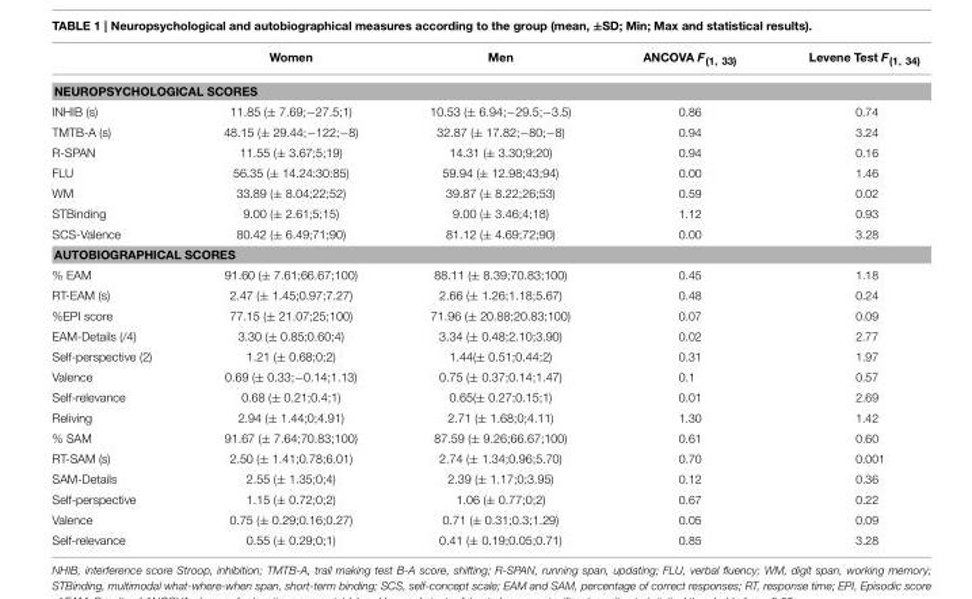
<table><thead><tr><td></td><td>Women</td><td>Men</td><td>ANCOVA F<sub>(1, 33)</sub></td><td>Levene Test F<sub>(1, 34)</sub></td></tr></thead><tbody><tr><td colspan="5">NEUROPSYCHOLOGICAL SCORES</td></tr><tr><td>INHIB (s)</td><td>11.85 (± 7.69;−27.5;1)</td><td>10.53 (± 6.94;−29.5;−3.5)</td><td>0.86</td><td>0.74</td></tr><tr><td>TMTB-A (s)</td><td>48.15 (± 29.44;−122;−8)</td><td>32.87 (± 17.82;−80;−8)</td><td>0.94</td><td>3.24</td></tr><tr><td>R-SPAN</td><td>11.55 (± 3.67;5;19)</td><td>14.31 (± 3.30;9;20)</td><td>0.94</td><td>0.16</td></tr><tr><td>FLU</td><td>56.35 (± 14.24:30:85)</td><td>59.94 (± 12.98;43;94)</td><td>0.00</td><td>1.46</td></tr><tr><td>WM</td><td>33.89 (± 8.04;22;52)</td><td>39.87 (± 8.22;26;53)</td><td>0.59</td><td>0.02</td></tr><tr><td>STBinding</td><td>9.00 (± 2.61;5;15)</td><td>9.00 (± 3.46;4;18)</td><td>1.12</td><td>0.93</td></tr><tr><td>SCS-Valence</td><td>80.42 (± 6.49;71;90)</td><td>81.12 (± 4.69;72;90)</td><td>0.00</td><td>3.28</td></tr><tr><td colspan="5">AUTOBIOGRAPHICAL SCORES</td></tr><tr><td>% EAM</td><td>91.60 (± 7.61;66.67;100)</td><td>88.11 (± 8.39;70.83;100)</td><td>0.45</td><td>1.18</td></tr><tr><td>RT-EAM (s)</td><td>2.47 (± 1.45;0.97;7.27)</td><td>2.66 (± 1.26;1.18;5.67)</td><td>0.48</td><td>0.24</td></tr><tr><td>%EPI score</td><td>77.15 (± 21.07;25;100)</td><td>71.96 (± 20.88;20.83;100)</td><td>0.07</td><td>0.09</td></tr><tr><td>EAM-Details (/4)</td><td>3.30 (± 0.85;0.60;4)</td><td>3.34 (± 0.48;2.10;3.90)</td><td>0.02</td><td>2.77</td></tr><tr><td>Self-perspective (2)</td><td>1.21 (± 0.68;0;2)</td><td>1.44(± 0.51;0.44;2)</td><td>0.31</td><td>1.97</td></tr><tr><td>Valence</td><td>0.69 (± 0.33;−0.14;1.13)</td><td>0.75 (± 0.37;0.14;1.47)</td><td>0.1</td><td>0.57</td></tr><tr><td>Self-relevance</td><td>0.68 (± 0.21;0.4;1)</td><td>0.65(± 0.27;0.15;1)</td><td>0.01</td><td>2.69</td></tr><tr><td>Reliving</td><td>2.94 (± 1.44;0;4.91)</td><td>2.71 (± 1.68;0;4.11)</td><td>1.30</td><td>1.42</td></tr><tr><td>% SAM</td><td>91.67 (± 7.64;70.83;100)</td><td>87.59 (± 9.26;66.67;100)</td><td>0.61</td><td>0.60</td></tr><tr><td>RT-SAM (s)</td><td>2.50 (± 1.41;0.78;6.01)</td><td>2.74 (± 1.34;0.96;5.70)</td><td>0.70</td><td>0.001</td></tr><tr><td>SAM-Details</td><td>2.55 (± 1.35;0;4)</td><td>2.39 (± 1.17;0;3.95)</td><td>0.12</td><td>0.36</td></tr><tr><td>Self-perspective</td><td>1.15 (± 0.72;0;2)</td><td>1.06 (± 0.77;0;2)</td><td>0.67</td><td>0.22</td></tr><tr><td>Valence</td><td>0.75 (± 0.29;0.16;0.27)</td><td>0.71 (± 0.31;0.3;1.29)</td><td>0.05</td><td>0.09</td></tr><tr><td>Self-relevance</td><td>0.55 (± 0.29;0;1)</td><td>0.41 (± 0.19;0.05;0.71)</td><td>0.85</td><td>3.28</td></tr></tbody></table>